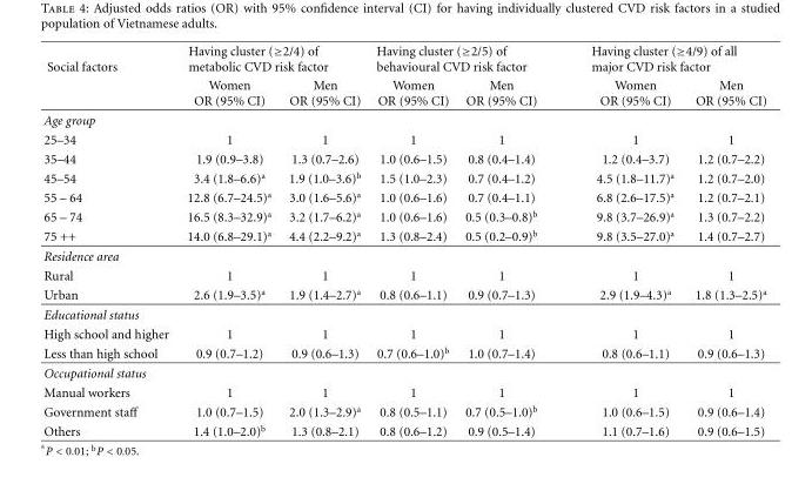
<table><thead><tr><td rowspan="2">Social factors</td><td colspan="2">Having cluster (≥2/4) of metabolic CVD risk factor</td><td colspan="2">Having cluster (≥2/5) of behavioural CVD risk factor</td><td colspan="2">Having cluster (≥4/9) of all major CVD risk factor</td></tr><tr><td>Women OR (95% CI)</td><td>Men OR (95% CI)</td><td>Women OR (95% CI)</td><td>Men OR (95% CI)</td><td>Women OR (95% CI)</td><td>Men OR (95% CI)</td></tr></thead><tbody><tr><td colspan="7">Age group</td></tr><tr><td>25–34</td><td>1</td><td>1</td><td>1</td><td>1</td><td>1</td><td>1</td></tr><tr><td>35–44</td><td>1.9 (0.9–3.8)</td><td>1.3 (0.7–2.6)</td><td>1.0 (0.6–1.5)</td><td>0.8 (0.4–1.4)</td><td>1.2 (0.4–3.7)</td><td>1.2 (0.7–2.2)</td></tr><tr><td>45–54</td><td>3.4 (1.8–6.6)<sup>a</sup></td><td>1.9 (1.0–3.6)<sup>b</sup></td><td>1.5 (1.0–2.3)</td><td>0.7 (0.4–1.2)</td><td>4.5 (1.8–11.7)<sup>a</sup></td><td>1.2 (0.7–2.0)</td></tr><tr><td>55 – 64</td><td>12.8 (6.7–24.5)<sup>a</sup></td><td>3.0 (1.6–5.6)<sup>a</sup></td><td>1.0 (0.6–1.6)</td><td>0.7 (0.4–1.1)</td><td>6.8 (2.6–17.5)<sup>a</sup></td><td>1.2 (0.7–2.1)</td></tr><tr><td>65 – 74</td><td>16.5 (8.3–32.9)<sup>a</sup></td><td>3.2 (1.7–6.2)<sup>a</sup></td><td>1.0 (0.6–1.6)</td><td>0.5 (0.3–0.8)<sup>b</sup></td><td>9.8 (3.7–26.9)<sup>a</sup></td><td>1.3 (0.7–2.2)</td></tr><tr><td>75 ++</td><td>14.0 (6.8–29.1)<sup>a</sup></td><td>4.4 (2.2–9.2)<sup>a</sup></td><td>1.3 (0.8–2.4)</td><td>0.5 (0.2–0.9)<sup>b</sup></td><td>9.8 (3.5–27.0)<sup>a</sup></td><td>1.4 (0.7–2.7)</td></tr><tr><td colspan="7">Residence area</td></tr><tr><td>Rural</td><td>1</td><td>1</td><td>1</td><td>1</td><td>1</td><td>1</td></tr><tr><td>Urban</td><td>2.6 (1.9–3.5)<sup>a</sup></td><td>1.9 (1.4–2.7)<sup>a</sup></td><td>0.8 (0.6–1.1)</td><td>0.9 (0.7–1.3)</td><td>2.9 (1.9–4.3)<sup>a</sup></td><td>1.8 (1.3–2.5)<sup>a</sup></td></tr><tr><td colspan="7">Educational status</td></tr><tr><td>High school and higher</td><td>1</td><td>1</td><td>1</td><td>1</td><td>1</td><td>1</td></tr><tr><td>Less than high school</td><td>0.9 (0.7–1.2)</td><td>0.9 (0.6–1.3)</td><td>0.7 (0.6–1.0)<sup>b</sup></td><td>1.0 (0.7–1.4)</td><td>0.8 (0.6–1.1)</td><td>0.9 (0.6–1.3)</td></tr><tr><td colspan="7">Occupational status</td></tr><tr><td>Manual workers</td><td>1</td><td>1</td><td>1</td><td>1</td><td>1</td><td>1</td></tr><tr><td>Government staff</td><td>1.0 (0.7–1.5)</td><td>2.0 (1.3–2.9)<sup>a</sup></td><td>0.8 (0.5–1.1)</td><td>0.7 (0.5–1.0)<sup>b</sup></td><td>1.0 (0.6–1.5)</td><td>0.9 (0.6–1.4)</td></tr><tr><td>Others</td><td>1.4 (1.0–2.0)<sup>b</sup></td><td>1.3 (0.8–2.1)</td><td>0.8 (0.6–1.2)</td><td>0.9 (0.5–1.4)</td><td>1.1 (0.7–1.6)</td><td>0.9 (0.6–1.5)</td></tr></tbody></table>